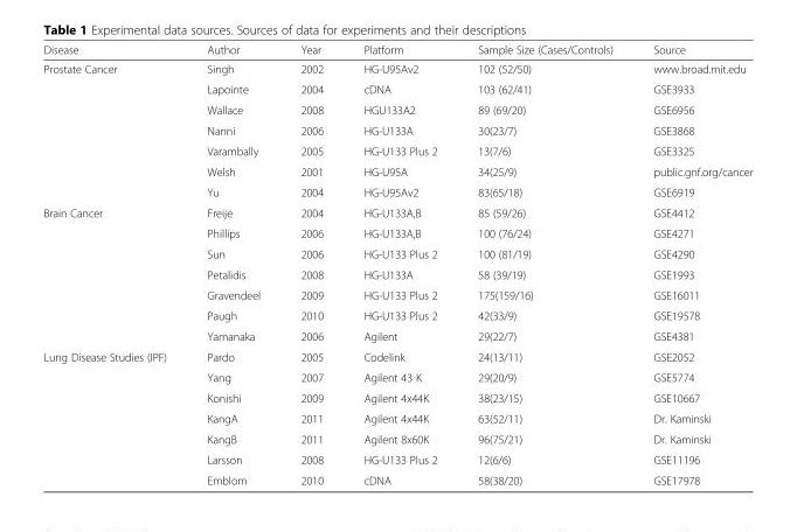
<table><thead><tr><td>Disease</td><td>Author</td><td>Year</td><td>Platform</td><td>Sample Size (Cases/Controls)</td><td>Source</td></tr></thead><tbody><tr><td rowspan="7">Prostate Cancer</td><td>Singh</td><td>2002</td><td>HG-U95Av2</td><td>102 (52/50)</td><td>www.broad.mit.edu</td></tr><tr><td>Lapointe</td><td>2004</td><td>cDNA</td><td>103 (62/41)</td><td>GSE3933</td></tr><tr><td>Wallace</td><td>2008</td><td>HGU133A2</td><td>89 (69/20)</td><td>GSE6956</td></tr><tr><td>Nanni</td><td>2006</td><td>HG-U133A</td><td>30(23/7)</td><td>GSE3868</td></tr><tr><td>Varambally</td><td>2005</td><td>HG-U133 Plus 2</td><td>13(7/6)</td><td>GSE3325</td></tr><tr><td>Welsh</td><td>2001</td><td>HG-U95A</td><td>34(25/9)</td><td>public.gnf.org/cancer</td></tr><tr><td>Yu</td><td>2004</td><td>HG-U95Av2</td><td>83(65/18)</td><td>GSE6919</td></tr><tr><td rowspan="7">Brain Cancer</td><td>Freije</td><td>2004</td><td>HG-U133A,B</td><td>85 (59/26)</td><td>GSE4412</td></tr><tr><td>Phillips</td><td>2006</td><td>HG-U133A,B</td><td>100 (76/24)</td><td>GSE4271</td></tr><tr><td>Sun</td><td>2006</td><td>HG-U133 Plus 2</td><td>100 (81/19)</td><td>GSE4290</td></tr><tr><td>Petalidis</td><td>2008</td><td>HG-U133A</td><td>58 (39/19)</td><td>GSE1993</td></tr><tr><td>Gravendeel</td><td>2009</td><td>HG-U133 Plus 2</td><td>175(159/16)</td><td>GSE16011</td></tr><tr><td>Paugh</td><td>2010</td><td>HG-U133 Plus 2</td><td>42(33/9)</td><td>GSE19578</td></tr><tr><td>Yamanaka</td><td>2006</td><td>Agilent</td><td>29(22/7)</td><td>GSE4381</td></tr><tr><td rowspan="7">Lung Disease Studies (IPF)</td><td>Pardo</td><td>2005</td><td>Codelink</td><td>24(13/11)</td><td>GSE2052</td></tr><tr><td>Yang</td><td>2007</td><td>Agilent 43 K</td><td>29(20/9)</td><td>GSE5774</td></tr><tr><td>Konishi</td><td>2009</td><td>Agilent 4x44K</td><td>38(23/15)</td><td>GSE10667</td></tr><tr><td>KangA</td><td>2011</td><td>Agilent 4x44K</td><td>63(52/11)</td><td>Dr. Kaminski</td></tr><tr><td>KangB</td><td>2011</td><td>Agilent 8x60K</td><td>96(75/21)</td><td>Dr. Kaminski</td></tr><tr><td>Larsson</td><td>2008</td><td>HG-U133 Plus 2</td><td>12(6/6)</td><td>GSE11196</td></tr><tr><td>Emblom</td><td>2010</td><td>cDNA</td><td>58(38/20)</td><td>GSE17978</td></tr></tbody></table>